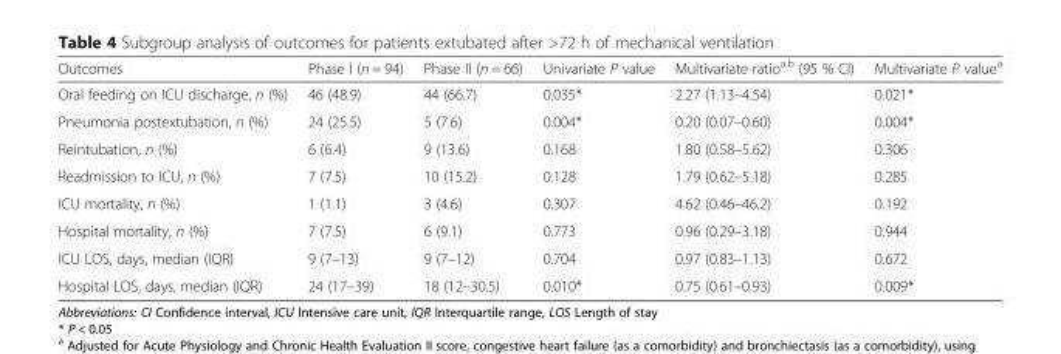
<table><thead><tr><td>Outcomes</td><td>Phase I (n = 94)</td><td>Phase II (n = 66)</td><td>Univariate P value</td><td>Multivariate ratio<sup>a,b</sup> (95 % CI)</td><td>Multivariate P value<sup>a</sup></td></tr></thead><tbody><tr><td>Oral feeding on ICU discharge, n (%)</td><td>46 (48.9)</td><td>44 (66.7)</td><td>0.035*</td><td>2.27 (1.13–4.54)</td><td>0.021*</td></tr><tr><td>Pneumonia postextubation, n (%)</td><td>24 (25.5)</td><td>5 (7.6)</td><td>0.004*</td><td>0.20 (0.07–0.60)</td><td>0.004*</td></tr><tr><td>Reintubation, n (%)</td><td>6 (6.4)</td><td>9 (13.6)</td><td>0.168</td><td>1.80 (0.58–5.62)</td><td>0.306</td></tr><tr><td>Readmission to ICU, n (%)</td><td>7 (7.5)</td><td>10 (15.2)</td><td>0.128</td><td>1.79 (0.62–5.18)</td><td>0.285</td></tr><tr><td>ICU mortality, n (%)</td><td>1 (1.1)</td><td>3 (4.6)</td><td>0.307</td><td>4.62 (0.46–46.2)</td><td>0.192</td></tr><tr><td>Hospital mortality, n (%)</td><td>7 (7.5)</td><td>6 (9.1)</td><td>0.773</td><td>0.96 (0.29–3.18)</td><td>0.944</td></tr><tr><td>ICU LOS, days, median (IQR)</td><td>9 (7–13)</td><td>9 (7–12)</td><td>0.704</td><td>0.97 (0.83–1.13)</td><td>0.672</td></tr><tr><td>Hospital LOS, days, median (IQR)</td><td>24 (17–39)</td><td>18 (12–30.5)</td><td>0.010*</td><td>0.75 (0.61–0.93)</td><td>0.009*</td></tr></tbody></table>